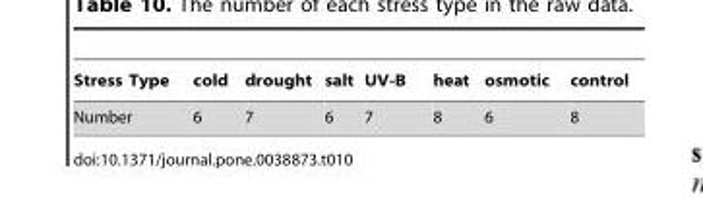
<table><thead><tr><td>Stress Type</td><td>cold</td><td>drought</td><td>salt</td><td>UV-B</td><td>heat</td><td>osmotic</td><td>control</td></tr></thead><tbody><tr><td>Number</td><td>6</td><td>7</td><td>6</td><td>7</td><td>8</td><td>6</td><td>8</td></tr></tbody></table>